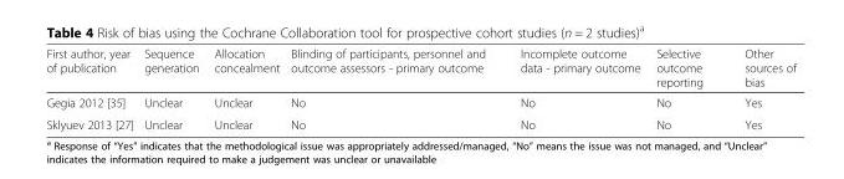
<table><thead><tr><td>First author, year of publication</td><td>Sequence generation</td><td>Allocation concealment</td><td>Blinding of participants, personnel and outcome assessors - primary outcome</td><td>Incomplete outcome data - primary outcome</td><td>Selective outcome reporting</td><td>Other sources of bias</td></tr></thead><tbody><tr><td>Gegia 2012 [35]</td><td>Unclear</td><td>Unclear</td><td>No</td><td>No</td><td>No</td><td>Yes</td></tr><tr><td>Sklyuev 2013 [27]</td><td>Unclear</td><td>Unclear</td><td>No</td><td>No</td><td>No</td><td>Yes</td></tr></tbody></table>